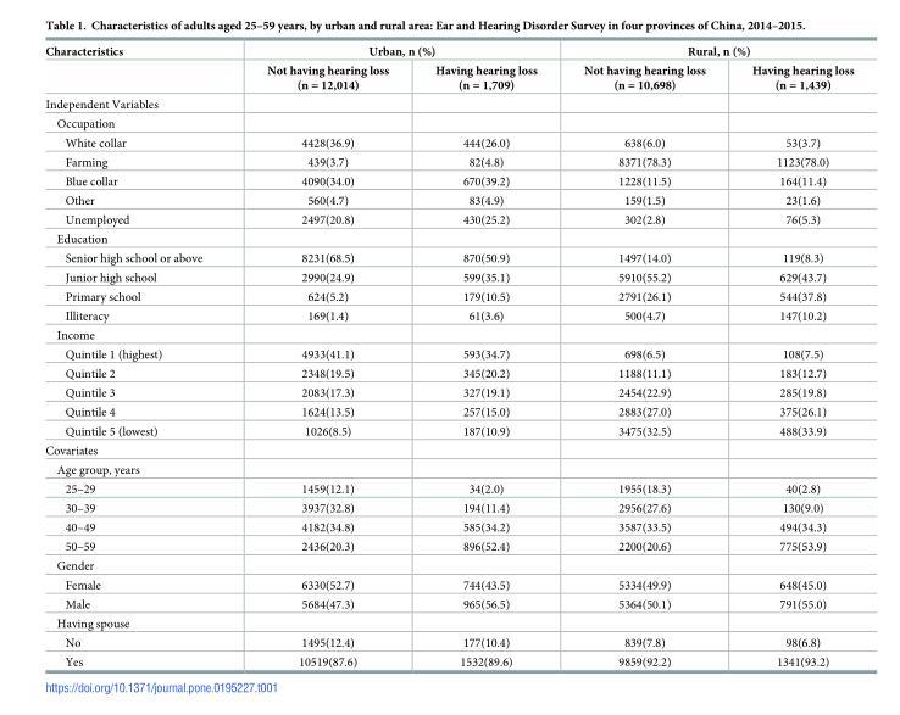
<table><thead><tr><td rowspan="2">Characteristics</td><td colspan="2">Urban, n (%)</td><td colspan="2">Rural, n (%)</td></tr><tr><td>Not having hearing loss (n = 12,014)</td><td>Having hearing loss (n = 1,709)</td><td>Not having hearing loss (n = 10,698)</td><td>Having hearing loss (n = 1,439)</td></tr></thead><tbody><tr><td colspan="5">Independent Variables</td></tr><tr><td colspan="5">Occupation</td></tr><tr><td>White collar</td><td>4428(36.9)</td><td>444(26.0)</td><td>638(6.0)</td><td>53(3.7)</td></tr><tr><td>Farming</td><td>439(3.7)</td><td>82(4.8)</td><td>8371(78.3)</td><td>1123(78.0)</td></tr><tr><td>Blue collar</td><td>4090(34.0)</td><td>670(39.2)</td><td>1228(11.5)</td><td>164(11.4)</td></tr><tr><td>Other</td><td>560(4.7)</td><td>83(4.9)</td><td>159(1.5)</td><td>23(1.6)</td></tr><tr><td>Unemployed</td><td>2497(20.8)</td><td>430(25.2)</td><td>302(2.8)</td><td>76(5.3)</td></tr><tr><td colspan="5">Education</td></tr><tr><td>Senior high school or above</td><td>8231(68.5)</td><td>870(50.9)</td><td>1497(14.0)</td><td>119(8.3)</td></tr><tr><td>Junior high school</td><td>2990(24.9)</td><td>599(35.1)</td><td>5910(55.2)</td><td>629(43.7)</td></tr><tr><td>Primary school</td><td>624(5.2)</td><td>179(10.5)</td><td>2791(26.1)</td><td>544(37.8)</td></tr><tr><td>Illiteracy</td><td>169(1.4)</td><td>61(3.6)</td><td>500(4.7)</td><td>147(10.2)</td></tr><tr><td colspan="5">Income</td></tr><tr><td>Quintile 1 (highest)</td><td>4933(41.1)</td><td>593(34.7)</td><td>698(6.5)</td><td>108(7.5)</td></tr><tr><td>Quintile 2</td><td>2348(19.5)</td><td>345(20.2)</td><td>1188(11.1)</td><td>183(12.7)</td></tr><tr><td>Quintile 3</td><td>2083(17.3)</td><td>327(19.1)</td><td>2454(22.9)</td><td>285(19.8)</td></tr><tr><td>Quintile 4</td><td>1624(13.5)</td><td>257(15.0)</td><td>2883(27.0)</td><td>375(26.1)</td></tr><tr><td>Quintile 5 (lowest)</td><td>1026(8.5)</td><td>187(10.9)</td><td>3475(32.5)</td><td>488(33.9)</td></tr><tr><td colspan="5">Covariates</td></tr><tr><td colspan="5">Age group, years</td></tr><tr><td>25–29</td><td>1459(12.1)</td><td>34(2.0)</td><td>1955(18.3)</td><td>40(2.8)</td></tr><tr><td>30–39</td><td>3937(32.8)</td><td>194(11.4)</td><td>2956(27.6)</td><td>130(9.0)</td></tr><tr><td>40–49</td><td>4182(34.8)</td><td>585(34.2)</td><td>3587(33.5)</td><td>494(34.3)</td></tr><tr><td>50–59</td><td>2436(20.3)</td><td>896(52.4)</td><td>2200(20.6)</td><td>775(53.9)</td></tr><tr><td colspan="5">Gender</td></tr><tr><td>Female</td><td>6330(52.7)</td><td>744(43.5)</td><td>5334(49.9)</td><td>648(45.0)</td></tr><tr><td>Male</td><td>5684(47.3)</td><td>965(56.5)</td><td>5364(50.1)</td><td>791(55.0)</td></tr><tr><td colspan="5">Having spouse</td></tr><tr><td>No</td><td>1495(12.4)</td><td>177(10.4)</td><td>839(7.8)</td><td>98(6.8)</td></tr><tr><td>Yes</td><td>10519(87.6)</td><td>1532(89.6)</td><td>9859(92.2)</td><td>1341(93.2)</td></tr></tbody></table>